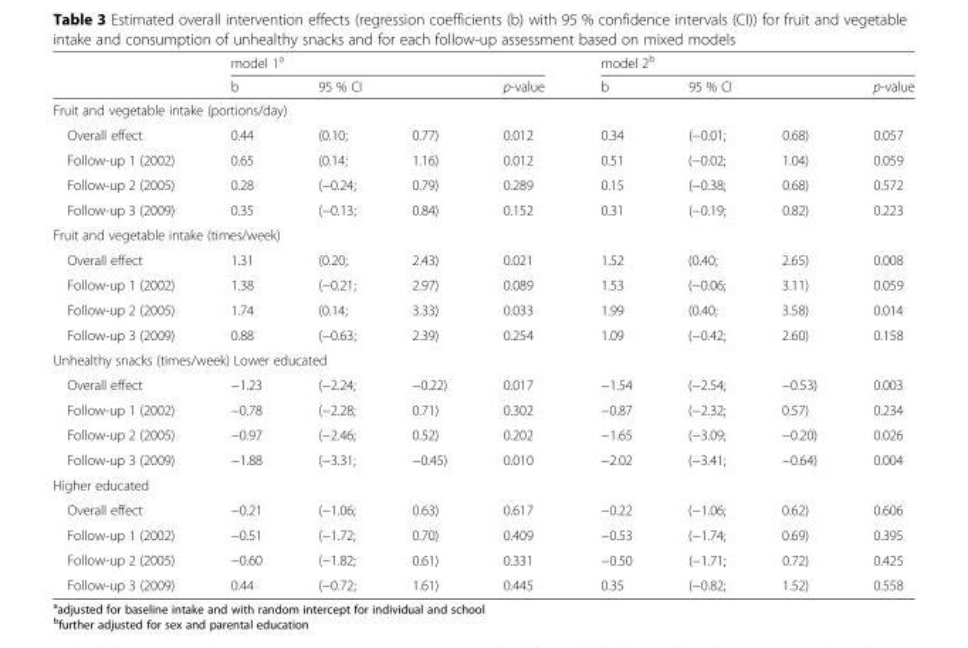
<table><thead><tr><td rowspan="2"></td><td colspan="4">model 1<sup>a</sup></td><td colspan="4">model 2<sup>b</sup></td></tr><tr><td>b</td><td colspan="2">95 % CI</td><td>p-value</td><td>b</td><td colspan="2">95 % CI</td><td>p-value</td></tr><tr><td colspan="9">Fruit and vegetable intake (portions/day)</td></tr><tr><td>Overall effect</td><td>0.44</td><td>(0.10;</td><td>0.77)</td><td>0.012</td><td>0.34</td><td>(−0.01;</td><td>0.68)</td><td>0.057</td></tr></thead><tbody><tr><td>Follow-up 1 (2002)</td><td>0.65</td><td>(0.14;</td><td>1.16)</td><td>0.012</td><td>0.51</td><td>(−0.02;</td><td>1.04)</td><td>0.059</td></tr><tr><td>Follow-up 2 (2005)</td><td>0.28</td><td>(−0.24;</td><td>0.79)</td><td>0.289</td><td>0.15</td><td>(−0.38;</td><td>0.68)</td><td>0.572</td></tr><tr><td>Follow-up 3 (2009)</td><td>0.35</td><td>(−0.13;</td><td>0.84)</td><td>0.152</td><td>0.31</td><td>(−0.19;</td><td>0.82)</td><td>0.223</td></tr><tr><td colspan="9">Fruit and vegetable intake (times/week)</td></tr><tr><td>Overall effect</td><td>1.31</td><td>(0.20;</td><td>2.43)</td><td>0.021</td><td>1.52</td><td>(0.40;</td><td>2.65)</td><td>0.008</td></tr><tr><td>Follow-up 1 (2002)</td><td>1.38</td><td>(−0.21;</td><td>2.97)</td><td>0.089</td><td>1.53</td><td>(−0.06;</td><td>3.11)</td><td>0.059</td></tr><tr><td>Follow-up 2 (2005)</td><td>1.74</td><td>(0.14;</td><td>3.33)</td><td>0.033</td><td>1.99</td><td>(0.40;</td><td>3.58)</td><td>0.014</td></tr><tr><td>Follow-up 3 (2009)</td><td>0.88</td><td>(−0.63;</td><td>2.39)</td><td>0.254</td><td>1.09</td><td>(−0.42;</td><td>2.60)</td><td>0.158</td></tr><tr><td colspan="9">Unhealthy snacks (times/week) Lower educated</td></tr><tr><td>Overall effect</td><td>−1.23</td><td>(−2.24;</td><td>−0.22)</td><td>0.017</td><td>−1.54</td><td>(−2.54;</td><td>−0.53)</td><td>0.003</td></tr><tr><td>Follow-up 1 (2002)</td><td>−0.78</td><td>(−2.28;</td><td>0.71)</td><td>0.302</td><td>−0.87</td><td>(−2.32;</td><td>0.57)</td><td>0.234</td></tr><tr><td>Follow-up 2 (2005)</td><td>−0.97</td><td>(−2.46;</td><td>0.52)</td><td>0.202</td><td>−1.65</td><td>(−3.09;</td><td>−0.20)</td><td>0.026</td></tr><tr><td>Follow-up 3 (2009)</td><td>−1.88</td><td>(−3.31;</td><td>−0.45)</td><td>0.010</td><td>−2.02</td><td>(−3.41;</td><td>−0.64)</td><td>0.004</td></tr><tr><td colspan="9">Higher educated</td></tr><tr><td>Overall effect</td><td>−0.21</td><td>(−1.06;</td><td>0.63)</td><td>0.617</td><td>−0.22</td><td>(−1.06;</td><td>0.62)</td><td>0.606</td></tr><tr><td>Follow-up 1 (2002)</td><td>−0.51</td><td>(−1.72;</td><td>0.70)</td><td>0.409</td><td>−0.53</td><td>(−1.74;</td><td>0.69)</td><td>0.395</td></tr><tr><td>Follow-up 2 (2005)</td><td>−0.60</td><td>(−1.82;</td><td>0.61)</td><td>0.331</td><td>−0.50</td><td>(−1.71;</td><td>0.72)</td><td>0.425</td></tr><tr><td>Follow-up 3 (2009)</td><td>0.44</td><td>(−0.72;</td><td>1.61)</td><td>0.445</td><td>0.35</td><td>(−0.82;</td><td>1.52)</td><td>0.558</td></tr></tbody></table>